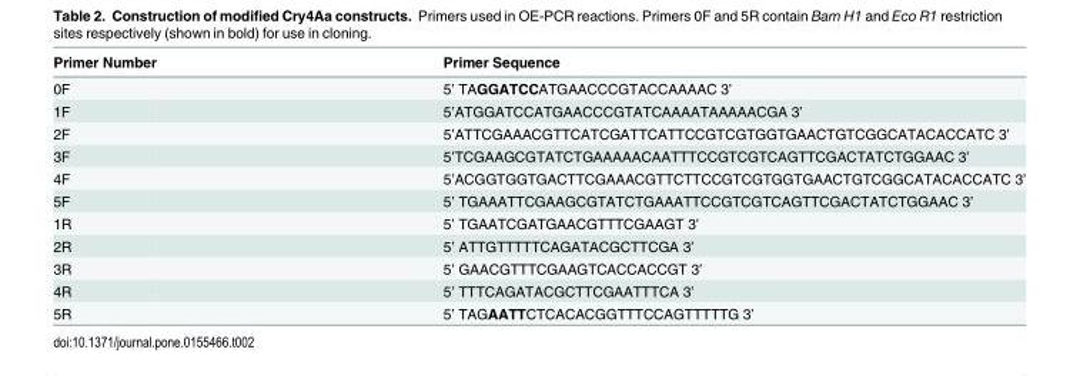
<table><thead><tr><td>Primer Number</td><td>Primer Sequence</td></tr></thead><tbody><tr><td>0F</td><td>5’ TAGGATCCATGAACCCGTACCAAAAC 3’</td></tr><tr><td>1F</td><td>5’ATGGATCCATGAACCCGTATCAAAATAAAAACGA 3’</td></tr><tr><td>2F</td><td>5’ATTCGAAACGTTCATCGATTCATTCCGTCGTGGTGAACTGTCGGCATACACCATC 3’</td></tr><tr><td>3F</td><td>5’TCGAAGCGTATCTGAAAAACAATTTCCGTCGTCAGTTCGACTATCTGGAAC 3’</td></tr><tr><td>4F</td><td>5’ACGGTGGTGACTTCGAAACGTTCTTCCGTCGTGGTGAACTGTCGGCATACACCATC 3’</td></tr><tr><td>5F</td><td>5’ TGAAATTCGAAGCGTATCTGAAATTCCGTCGTCAGTTCGACTATCTGGAAC 3’</td></tr><tr><td>1R</td><td>5’ TGAATCGATGAACGTTTCGAAGT 3’</td></tr><tr><td>2R</td><td>5’ ATTGTTTTTCAGATACGCTTCGA 3’</td></tr><tr><td>3R</td><td>5’ GAACGTTTCGAAGTCACCACCGT 3’</td></tr><tr><td>4R</td><td>5’ TTTCAGATACGCTTCGAATTTCA 3’</td></tr><tr><td>5R</td><td>5’ TAGAATTCTCACACGGTTTCCAGTTTTTG 3’</td></tr></tbody></table>